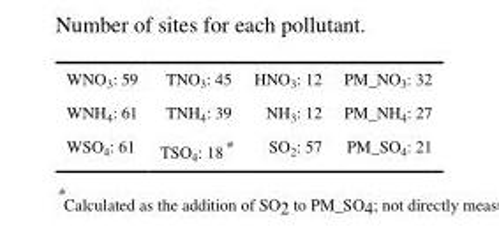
<table><tbody><tr><td>WNO<sub>3</sub>: 59</td><td>TNO<sub>3</sub>: 45</td><td>HNO<sub>3</sub>: 12</td><td>PM_NO<sub>3</sub>: 32</td></tr><tr><td>WNH<sub>4</sub>: 61</td><td>TNH<sub>4</sub>: 39</td><td>NH<sub>3</sub>: 12</td><td>PM_NH<sub>4</sub>: 27</td></tr><tr><td>WSO<sub>4</sub>: 61</td><td>TSO<sub>4</sub>: 18*</td><td>SO<sub>2</sub>: 57</td><td>PM_SO<sub>4</sub>: 21</td></tr></tbody></table>